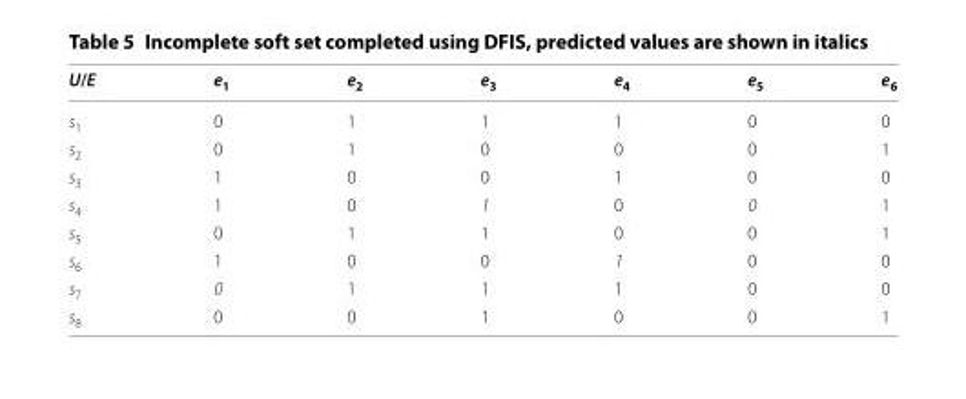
<table><thead><tr><td>U/E</td><td>e<sub>1</sub></td><td>e<sub>2</sub></td><td>e<sub>3</sub></td><td>e<sub>4</sub></td><td>e<sub>5</sub></td><td>e<sub>6</sub></td></tr></thead><tbody><tr><td>s<sub>1</sub></td><td>0</td><td>1</td><td>1</td><td>1</td><td>0</td><td>0</td></tr><tr><td>s<sub>2</sub></td><td>0</td><td>1</td><td>0</td><td>0</td><td>0</td><td>1</td></tr><tr><td>s<sub>3</sub></td><td>1</td><td>0</td><td>0</td><td>1</td><td>0</td><td>0</td></tr><tr><td>s<sub>4</sub></td><td>1</td><td>0</td><td>1</td><td>0</td><td>0</td><td>1</td></tr><tr><td>s<sub>5</sub></td><td>0</td><td>1</td><td>1</td><td>0</td><td>0</td><td>1</td></tr><tr><td>s<sub>6</sub></td><td>1</td><td>0</td><td>0</td><td>1</td><td>0</td><td>0</td></tr><tr><td>s<sub>7</sub></td><td>0</td><td>1</td><td>1</td><td>1</td><td>0</td><td>0</td></tr><tr><td>s<sub>8</sub></td><td>0</td><td>0</td><td>1</td><td>0</td><td>0</td><td>1</td></tr></tbody></table>